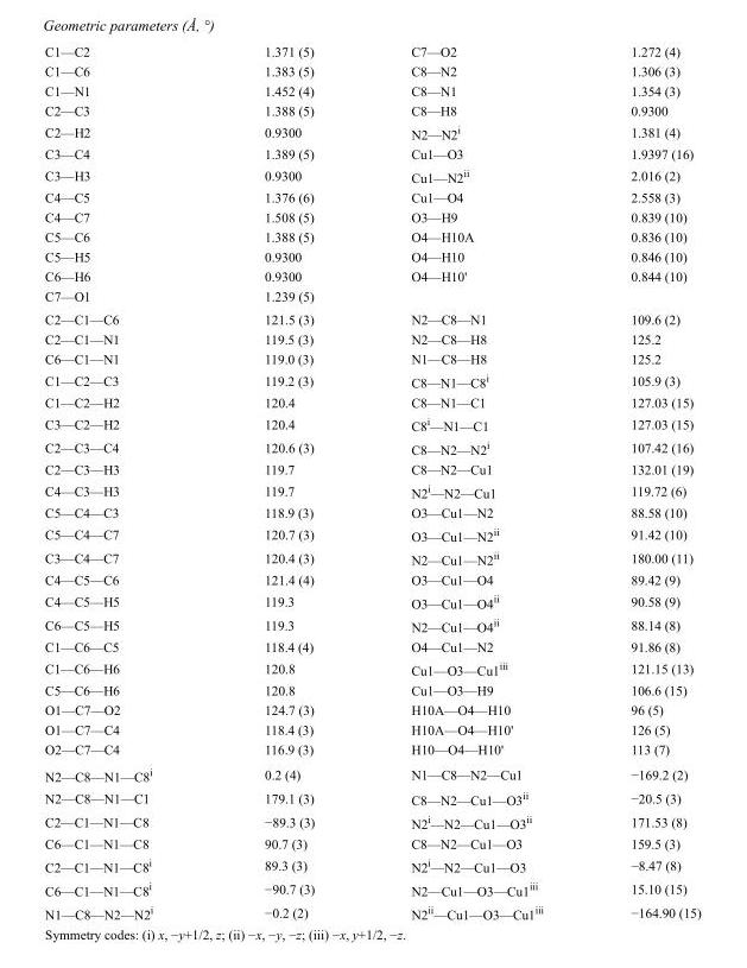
<table><tbody><tr><td>C1—C2</td><td>1.371 (5)</td><td>C7—O2</td><td>1.272 (4)</td></tr><tr><td>C1—C6</td><td>1.383 (5)</td><td>C8—N2</td><td>1.306 (3)</td></tr><tr><td>C1—N1</td><td>1.452 (4)</td><td>C8—N1</td><td>1.354 (3)</td></tr><tr><td>C2—C3</td><td>1.388 (5)</td><td>C8—H8</td><td>0.9300</td></tr><tr><td>C2—H2</td><td>0.9300</td><td>N2—N2<sup>i</sup></td><td>1.381 (4)</td></tr><tr><td>C3—C4</td><td>1.389 (5)</td><td>Cu1—O3</td><td>1.9397 (16)</td></tr><tr><td>C3—H3</td><td>0.9300</td><td>Cu1—N2<sup>ii</sup></td><td>2.016 (2)</td></tr><tr><td>C4—C5</td><td>1.376 (6)</td><td>Cu1—O4</td><td>2.558 (3)</td></tr><tr><td>C4—C7</td><td>1.508 (5)</td><td>O3—H9</td><td>0.839 (10)</td></tr><tr><td>C5—C6</td><td>1.388 (5)</td><td>O4—H10A</td><td>0.836 (10)</td></tr><tr><td>C5—H5</td><td>0.9300</td><td>O4—H10</td><td>0.846 (10)</td></tr><tr><td>C6—H6</td><td>0.9300</td><td>O4—H10&#x27;</td><td>0.844 (10)</td></tr><tr><td>C7—O1</td><td>1.239 (5)</td><td></td><td></td></tr><tr><td>C2—C1—C6</td><td>121.5 (3)</td><td>N2—C8—N1</td><td>109.6 (2)</td></tr><tr><td>C2—C1—N1</td><td>119.5 (3)</td><td>N2—C8—H8</td><td>125.2</td></tr><tr><td>C6—C1—N1</td><td>119.0 (3)</td><td>N1—C8—H8</td><td>125.2</td></tr><tr><td>C1—C2—C3</td><td>119.2 (3)</td><td>C8—N1—C8<sup>i</sup></td><td>105.9 (3)</td></tr><tr><td>C1—C2—H2</td><td>120.4</td><td>C8—N1—C1</td><td>127.03 (15)</td></tr><tr><td>C3—C2—H2</td><td>120.4</td><td>C8<sup>i</sup>—N1—C1</td><td>127.03 (15)</td></tr><tr><td>C2—C3—C4</td><td>120.6 (3)</td><td>C8—N2—N2<sup>i</sup></td><td>107.42 (16)</td></tr><tr><td>C2—C3—H3</td><td>119.7</td><td>C8—N2—Cu1</td><td>132.01 (19)</td></tr><tr><td>C4—C3—H3</td><td>119.7</td><td>N2<sup>i</sup>—N2—Cu1</td><td>119.72 (6)</td></tr><tr><td>C5—C4—C3</td><td>118.9 (3)</td><td>O3—Cu1—N2</td><td>88.58 (10)</td></tr><tr><td>C5—C4—C7</td><td>120.7 (3)</td><td>O3—Cu1—N2<sup>ii</sup></td><td>91.42 (10)</td></tr><tr><td>C3—C4—C7</td><td>120.4 (3)</td><td>N2—Cu1—N2<sup>ii</sup></td><td>180.00 (11)</td></tr><tr><td>C4—C5—C6</td><td>121.4 (4)</td><td>O3—Cu1—O4</td><td>89.42 (9)</td></tr><tr><td>C4—C5—H5</td><td>119.3</td><td>O3—Cu1—O4<sup>ii</sup></td><td>90.58 (9)</td></tr><tr><td>C6—C5—H5</td><td>119.3</td><td>N2—Cu1—O4<sup>ii</sup></td><td>88.14 (8)</td></tr><tr><td>C1—C6—C5</td><td>118.4 (4)</td><td>O4—Cu1—N2</td><td>91.86 (8)</td></tr><tr><td>C1—C6—H6</td><td>120.8</td><td>Cu1—O3—Cu1<sup>iii</sup></td><td>121.15 (13)</td></tr><tr><td>C5—C6—H6</td><td>120.8</td><td>Cu1—O3—H9</td><td>106.6 (15)</td></tr><tr><td>O1—C7—O2</td><td>124.7 (3)</td><td>H10A—O4—H10</td><td>96 (5)</td></tr><tr><td>O1—C7—C4</td><td>118.4 (3)</td><td>H10A—O4—H10&#x27;</td><td>126 (5)</td></tr><tr><td>O2—C7—C4</td><td>116.9 (3)</td><td>H10—O4—H10&#x27;</td><td>113 (7)</td></tr><tr><td>N2—C8—N1—C8<sup>i</sup></td><td>0.2 (4)</td><td>N1—C8—N2—Cu1</td><td>−169.2 (2)</td></tr><tr><td>N2—C8—N1—C1</td><td>179.1 (3)</td><td>C8—N2—Cu1—O3<sup>ii</sup></td><td>−20.5 (3)</td></tr><tr><td>C2—C1—N1—C8</td><td>−89.3 (3)</td><td>N2<sup>i</sup>—N2—Cu1—O3<sup>ii</sup></td><td>171.53 (8)</td></tr><tr><td>C6—C1—N1—C8</td><td>90.7 (3)</td><td>C8—N2—Cu1—O3</td><td>159.5 (3)</td></tr><tr><td>C2—C1—N1—C8<sup>i</sup></td><td>89.3 (3)</td><td>N2<sup>i</sup>—N2—Cu1—O3</td><td>−8.47 (8)</td></tr><tr><td>C6—C1—N1—C8<sup>i</sup></td><td>−90.7 (3)</td><td>N2—Cu1—O3—Cu1<sup>iii</sup></td><td>15.10 (15)</td></tr><tr><td>N1—C8—N2—N2<sup>i</sup></td><td>−0.2 (2)</td><td>N2<sup>ii</sup>—Cu1—O3—Cu1<sup>iii</sup></td><td>−164.90 (15)</td></tr></tbody></table>